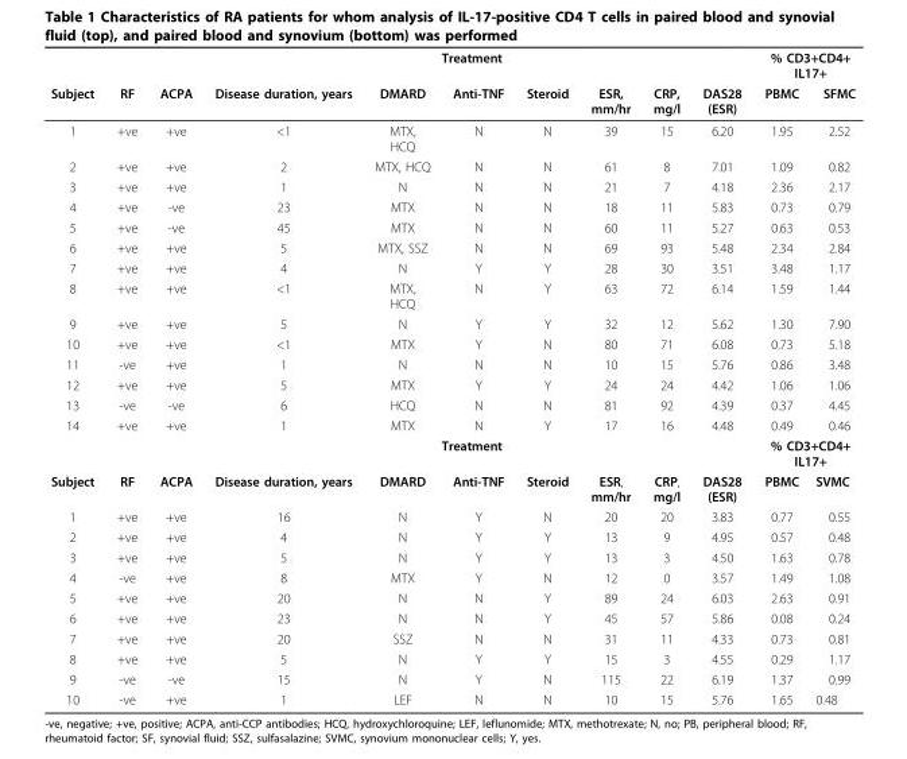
<table><thead><tr><td rowspan="2">Subject</td><td rowspan="2">RF</td><td rowspan="2">ACPA</td><td rowspan="2">Disease duration, years</td><td colspan="3">Treatment</td><td rowspan="2">ESR, mm/hr</td><td rowspan="2">CRP, mg/l</td><td rowspan="2">DAS28 (ESR)</td><td colspan="2">% CD3+CD4+ IL17+</td></tr><tr><td>DMARD</td><td>Anti-TNF</td><td>Steroid</td><td>PBMC</td><td>SFMC</td></tr></thead><tbody><tr><td>1</td><td>+ve</td><td>+ve</td><td>&lt;1</td><td>MTX, HCQ</td><td>N</td><td>N</td><td>39</td><td>15</td><td>6.20</td><td>1.95</td><td>2.52</td></tr><tr><td>2</td><td>+ve</td><td>+ve</td><td>2</td><td>MTX, HCQ</td><td>N</td><td>N</td><td>61</td><td>8</td><td>7.01</td><td>1.09</td><td>0.82</td></tr><tr><td>3</td><td>+ve</td><td>+ve</td><td>1</td><td>N</td><td>N</td><td>N</td><td>21</td><td>7</td><td>4.18</td><td>2.36</td><td>2.17</td></tr><tr><td>4</td><td>+ve</td><td>-ve</td><td>23</td><td>MTX</td><td>N</td><td>N</td><td>18</td><td>11</td><td>5.83</td><td>0.73</td><td>0.79</td></tr><tr><td>5</td><td>+ve</td><td>-ve</td><td>45</td><td>MTX</td><td>N</td><td>N</td><td>60</td><td>11</td><td>5.27</td><td>0.63</td><td>0.53</td></tr><tr><td>6</td><td>+ve</td><td>+ve</td><td>5</td><td>MTX, SSZ</td><td>N</td><td>N</td><td>69</td><td>93</td><td>5.48</td><td>2.34</td><td>2.84</td></tr><tr><td>7</td><td>+ve</td><td>+ve</td><td>4</td><td>N</td><td>Y</td><td>Y</td><td>28</td><td>30</td><td>3.51</td><td>3.48</td><td>1.17</td></tr><tr><td>8</td><td>+ve</td><td>+ve</td><td>&lt;1</td><td>MTX, HCQ</td><td>N</td><td>Y</td><td>63</td><td>72</td><td>6.14</td><td>1.59</td><td>1.44</td></tr><tr><td>9</td><td>+ve</td><td>+ve</td><td>5</td><td>N</td><td>Y</td><td>Y</td><td>32</td><td>12</td><td>5.62</td><td>1.30</td><td>7.90</td></tr><tr><td>10</td><td>+ve</td><td>+ve</td><td>&lt;1</td><td>MTX</td><td>Y</td><td>N</td><td>80</td><td>71</td><td>6.08</td><td>0.73</td><td>5.18</td></tr><tr><td>11</td><td>-ve</td><td>+ve</td><td>1</td><td>N</td><td>N</td><td>N</td><td>10</td><td>15</td><td>5.76</td><td>0.86</td><td>3.48</td></tr><tr><td>12</td><td>+ve</td><td>+ve</td><td>5</td><td>MTX</td><td>Y</td><td>Y</td><td>24</td><td>24</td><td>4.42</td><td>1.06</td><td>1.06</td></tr><tr><td>13</td><td>-ve</td><td>-ve</td><td>6</td><td>HCQ</td><td>N</td><td>N</td><td>81</td><td>92</td><td>4.39</td><td>0.37</td><td>4.45</td></tr><tr><td rowspan="2">14</td><td>+ve</td><td>+ve</td><td>1</td><td>MTX</td><td>N</td><td>Y</td><td>17</td><td>16</td><td>4.48</td><td>0.49</td><td>0.46</td></tr><tr><td></td><td></td><td></td><td colspan="3">Treatment</td><td></td><td></td><td></td><td colspan="2">% CD3+CD4+ IL17+</td></tr><tr><td>Subject</td><td>RF</td><td>ACPA</td><td>Disease duration, years</td><td>DMARD</td><td>Anti-TNF</td><td>Steroid</td><td>ESR, mm/hr</td><td>CRP, mg/l</td><td>DAS28 (ESR)</td><td>PBMC</td><td>SVMC</td></tr><tr><td>1</td><td>+ve</td><td>+ve</td><td>16</td><td>N</td><td>Y</td><td>N</td><td>20</td><td>20</td><td>3.83</td><td>0.77</td><td>0.55</td></tr><tr><td>2</td><td>+ve</td><td>+ve</td><td>4</td><td>N</td><td>Y</td><td>Y</td><td>13</td><td>9</td><td>4.95</td><td>0.57</td><td>0.48</td></tr><tr><td>3</td><td>+ve</td><td>+ve</td><td>5</td><td>N</td><td>Y</td><td>Y</td><td>13</td><td>3</td><td>4.50</td><td>1.63</td><td>0.78</td></tr><tr><td>4</td><td>-ve</td><td>+ve</td><td>8</td><td>MTX</td><td>Y</td><td>N</td><td>12</td><td>0</td><td>3.57</td><td>1.49</td><td>1.08</td></tr><tr><td>5</td><td>+ve</td><td>+ve</td><td>20</td><td>N</td><td>N</td><td>Y</td><td>89</td><td>24</td><td>6.03</td><td>2.63</td><td>0.91</td></tr><tr><td>6</td><td>+ve</td><td>+ve</td><td>23</td><td>N</td><td>N</td><td>Y</td><td>45</td><td>57</td><td>5.86</td><td>0.08</td><td>0.24</td></tr><tr><td>7</td><td>+ve</td><td>+ve</td><td>20</td><td>SSZ</td><td>N</td><td>N</td><td>31</td><td>11</td><td>4.33</td><td>0.73</td><td>0.81</td></tr><tr><td>8</td><td>+ve</td><td>+ve</td><td>5</td><td>N</td><td>Y</td><td>Y</td><td>15</td><td>3</td><td>4.55</td><td>0.29</td><td>1.17</td></tr><tr><td>9</td><td>-ve</td><td>-ve</td><td>15</td><td>N</td><td>Y</td><td>N</td><td>115</td><td>22</td><td>6.19</td><td>1.37</td><td>0.99</td></tr><tr><td>10</td><td>-ve</td><td>+ve</td><td>1</td><td>LEF</td><td>N</td><td>N</td><td>10</td><td>15</td><td>5.76</td><td>1.65</td><td>0.48</td></tr></tbody></table>